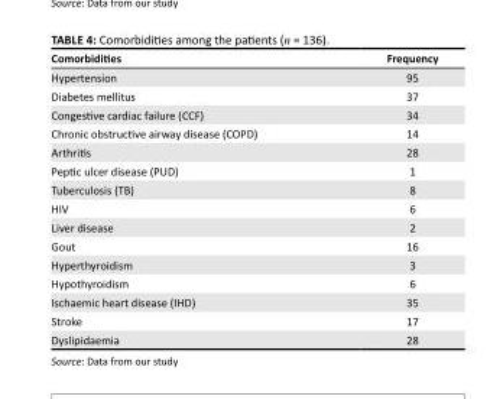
<table><thead><tr><td>Comorbidities</td><td>Frequency</td></tr></thead><tbody><tr><td>Hypertension</td><td>95</td></tr><tr><td>Diabetes mellitus</td><td>37</td></tr><tr><td>Congestive cardiac failure (CCF)</td><td>34</td></tr><tr><td>Chronic obstructive airway disease (COPD)</td><td>14</td></tr><tr><td>Arthritis</td><td>28</td></tr><tr><td>Peptic ulcer disease (PUD)</td><td>1</td></tr><tr><td>Tuberculosis (TB)</td><td>8</td></tr><tr><td>HIV</td><td>6</td></tr><tr><td>Liver disease</td><td>2</td></tr><tr><td>Gout</td><td>16</td></tr><tr><td>Hyperthyroidism</td><td>3</td></tr><tr><td>Hypothyroidism</td><td>6</td></tr><tr><td>Ischaemic heart disease (IHD)</td><td>35</td></tr><tr><td>Stroke</td><td>17</td></tr><tr><td>Dyslipidaemia</td><td>28</td></tr></tbody></table>